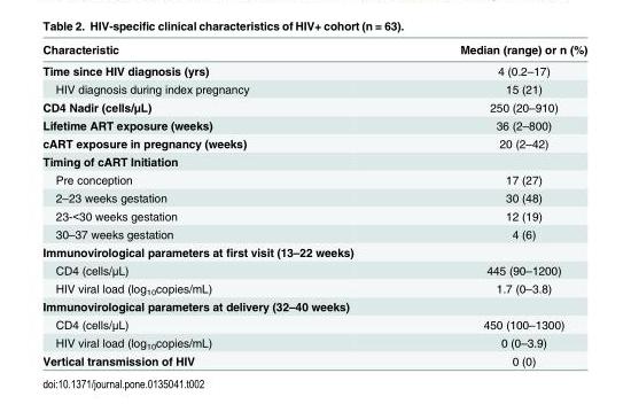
<table><thead><tr><td>Characteristic</td><td>Median (range) or n (%)</td></tr></thead><tbody><tr><td>Time since HIV diagnosis (yrs)</td><td>4 (0.2–17)</td></tr><tr><td>HIV diagnosis during index pregnancy</td><td>15 (21)</td></tr><tr><td>CD4 Nadir (cells/μL)</td><td>250 (20–910)</td></tr><tr><td>Lifetime ART exposure (weeks)</td><td>36 (2–800)</td></tr><tr><td>cART exposure in pregnancy (weeks)</td><td>20 (2–42)</td></tr><tr><td colspan="2">Timing of cART Initiation</td></tr><tr><td>Pre conception</td><td>17 (27)</td></tr><tr><td>2–23 weeks gestation</td><td>30 (48)</td></tr><tr><td>23-&lt;30 weeks gestation</td><td>12 (19)</td></tr><tr><td>30–37 weeks gestation</td><td>4 (6)</td></tr><tr><td colspan="2">Immunovirological parameters at first visit (13–22 weeks)</td></tr><tr><td>CD4 (cells/μL)</td><td>445 (90–1200)</td></tr><tr><td>HIV viral load (log<sub>10</sub>copies/mL)</td><td>1.7 (0–3.8)</td></tr><tr><td colspan="2">Immunovirological parameters at delivery (32–40 weeks)</td></tr><tr><td>CD4 (cells/μL)</td><td>450 (100–1300)</td></tr><tr><td>HIV viral load (log<sub>10</sub>copies/mL)</td><td>0 (0–3.9)</td></tr><tr><td>Vertical transmission of HIV</td><td>0 (0)</td></tr></tbody></table>